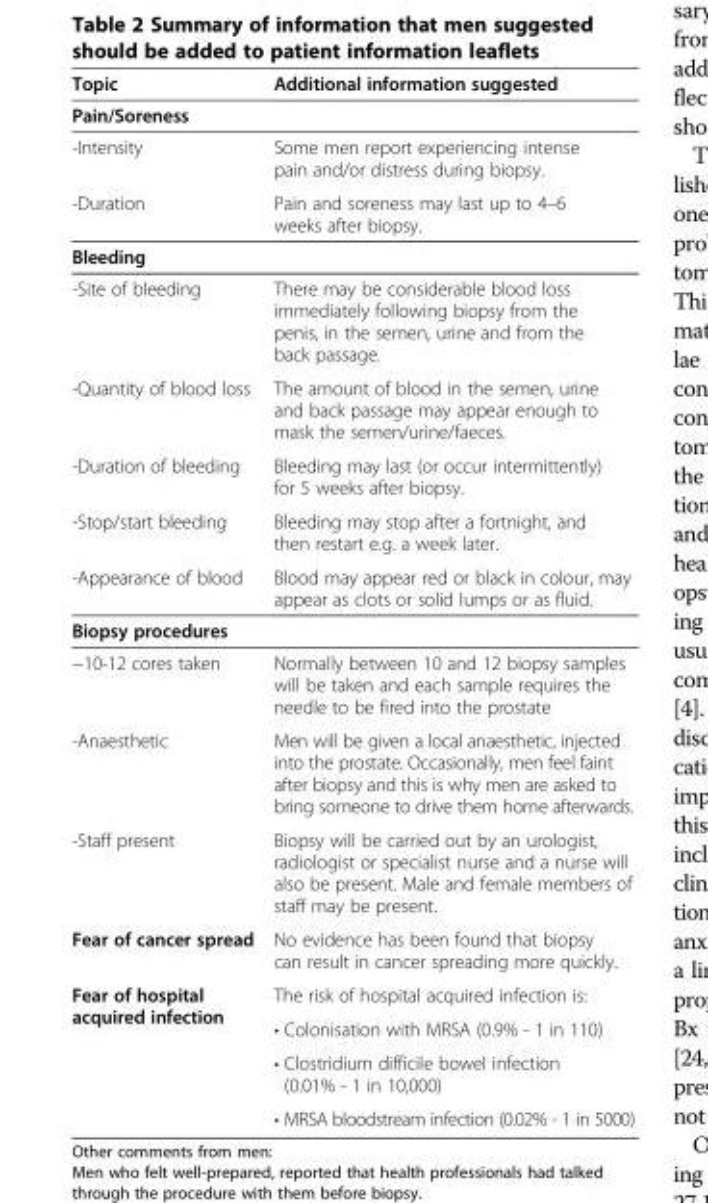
<table><thead><tr><td>Topic</td><td>Additional information suggested</td></tr></thead><tbody><tr><td colspan="2">Pain/Soreness</td></tr><tr><td>-Intensity</td><td>Some men report experiencing intense pain and/or distress during biopsy.</td></tr><tr><td>-Duration</td><td>Pain and soreness may last up to 4–6 weeks after biopsy.</td></tr><tr><td colspan="2">Bleeding</td></tr><tr><td>-Site of bleeding</td><td>There may be considerable blood loss immediately following biopsy from the penis, in the semen, urine and from the back passage.</td></tr><tr><td>-Quantity of blood loss</td><td>The amount of blood in the semen, urine and back passage may appear enough to mask the semen/urine/faeces.</td></tr><tr><td>-Duration of bleeding</td><td>Bleeding may last (or occur intermittently) for 5 weeks after biopsy.</td></tr><tr><td>-Stop/start bleeding</td><td>Bleeding may stop after a fortnight, and then restart e.g. a week later.</td></tr><tr><td>-Appearance of blood</td><td>Blood may appear red or black in colour, may appear as clots or solid lumps or as fluid.</td></tr><tr><td colspan="2">Biopsy procedures</td></tr><tr><td>−10-12 cores taken</td><td>Normally between 10 and 12 biopsy samples will be taken and each sample requires the needle to be fired into the prostate</td></tr><tr><td>-Anaesthetic</td><td>Men will be given a local anaesthetic, injected into the prostate. Occasionally, men feel faint after biopsy and this is why men are asked to bring someone to drive them home afterwards.</td></tr><tr><td>-Staff present</td><td>Biopsy will be carried out by an urologist, radiologist or specialist nurse and a nurse will also be present. Male and female members of staff may be present.</td></tr><tr><td>Fear of cancer spread</td><td>No evidence has been found that biopsy can result in cancer spreading more quickly.</td></tr><tr><td rowspan="4">Fear of hospital acquired infection</td><td>The risk of hospital acquired infection is:</td></tr><tr><td>• Colonisation with MRSA (0.9% - 1 in 110)</td></tr><tr><td>• Clostridium difficile bowel infection (0.01% - 1 in 10,000)</td></tr><tr><td>• MRSA bloodstream infection (0.02% - 1 in 5000)</td></tr></tbody></table>